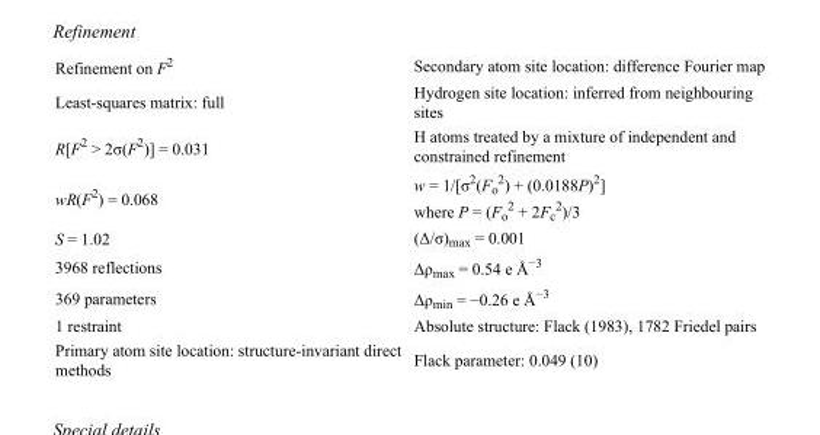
<table><tbody><tr><td>Refinement on F<sup>2</sup></td><td>Secondary atom site location: difference Fourier map</td></tr><tr><td>Least-squares matrix: full</td><td>Hydrogen site location: inferred from neighbouring sites</td></tr><tr><td>R[F<sup>2</sup> &gt; 2σ(F<sup>2</sup>)] = 0.031</td><td>H atoms treated by a mixture of independent and constrained refinement</td></tr><tr><td>wR(F<sup>2</sup>) = 0.068</td><td>w = 1/[σ<sup>2</sup>(F<sub>o</sub> <sup>2</sup>) + (0.0188P)<sup>2</sup>] where P = (F<sub>o</sub> <sup>2</sup> + 2F<sub>c</sub> <sup>2</sup>)/3</td></tr><tr><td>S = 1.02</td><td>(Δ/σ)<sub>max</sub> = 0.001</td></tr><tr><td>3968 reflections</td><td>Δρ<sub>max</sub> = 0.54 e Å<sup>−3</sup></td></tr><tr><td>369 parameters</td><td>Δρ<sub>min</sub> = −0.26 e Å<sup>−3</sup></td></tr><tr><td>1 restraint</td><td>Absolute structure: Flack (1983), 1782 Friedel pairs</td></tr><tr><td>Primary atom site location: structure-invariant direct methods</td><td>Flack parameter: 0.049 (10)</td></tr></tbody></table>